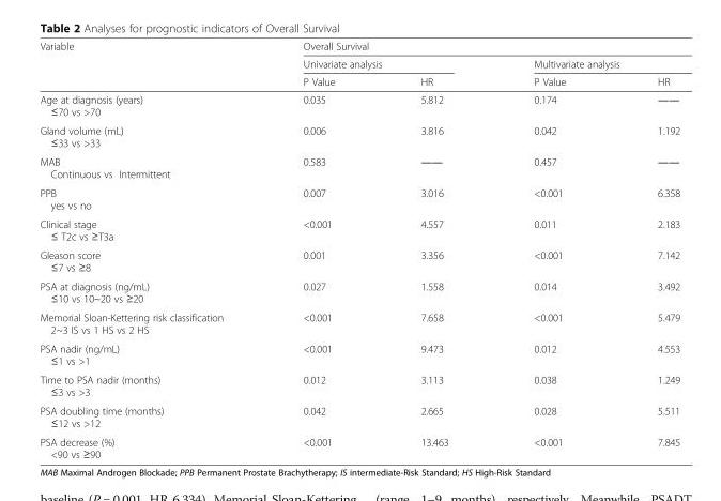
<table><thead><tr><td rowspan="3">Variable</td><td colspan="4">Overall Survival</td></tr><tr><td colspan="2">Univariate analysis</td><td colspan="2">Multivariate analysis</td></tr><tr><td>P Value</td><td>HR</td><td>P Value</td><td>HR</td></tr></thead><tbody><tr><td>Age at diagnosis (years) ≤70 vs &gt;70</td><td>0.035</td><td>5.812</td><td>0.174</td><td>――</td></tr><tr><td>Gland volume (mL) ≤33 vs &gt;33</td><td>0.006</td><td>3.816</td><td>0.042</td><td>1.192</td></tr><tr><td>MAB Continuous vs Intermittent</td><td>0.583</td><td>――</td><td>0.457</td><td>――</td></tr><tr><td>PPB yes vs no</td><td>0.007</td><td>3.016</td><td>&lt;0.001</td><td>6.358</td></tr><tr><td>Clinical stage ≤ T2c vs ≥T3a</td><td>&lt;0.001</td><td>4.557</td><td>0.011</td><td>2.183</td></tr><tr><td>Gleason score ≤7 vs ≥8</td><td>0.001</td><td>3.356</td><td>&lt;0.001</td><td>7.142</td></tr><tr><td>PSA at diagnosis (ng/mL) ≤10 vs 10~20 vs ≥20</td><td>0.027</td><td>1.558</td><td>0.014</td><td>3.492</td></tr><tr><td>Memorial Sloan-Kettering risk classification 2~3 IS vs 1 HS vs 2 HS</td><td>&lt;0.001</td><td>7.658</td><td>&lt;0.001</td><td>5.479</td></tr><tr><td>PSA nadir (ng/mL) ≤1 vs &gt;1</td><td>&lt;0.001</td><td>9.473</td><td>0.012</td><td>4.553</td></tr><tr><td>Time to PSA nadir (months) ≤3 vs &gt;3</td><td>0.012</td><td>3.113</td><td>0.038</td><td>1.249</td></tr><tr><td>PSA doubling time (months) ≤12 vs &gt;12</td><td>0.042</td><td>2.665</td><td>0.028</td><td>5.511</td></tr><tr><td>PSA decrease (%) &lt;90 vs ≥90</td><td>&lt;0.001</td><td>13.463</td><td>&lt;0.001</td><td>7.845</td></tr></tbody></table>